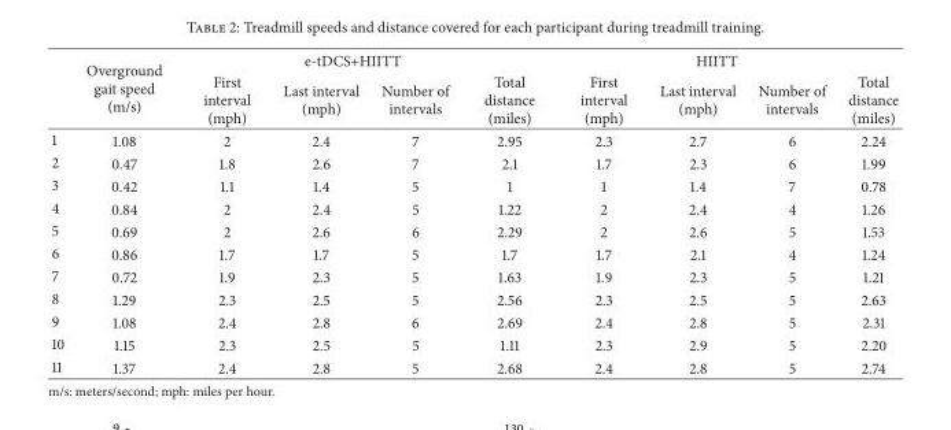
<table><thead><tr><td rowspan="2"></td><td rowspan="2">Overground gait speed (m/s)</td><td colspan="4">e-tDCS+HIITT</td><td colspan="4">HIITT</td></tr><tr><td>First interval (mph)</td><td>Last interval (mph)</td><td>Number of intervals</td><td>Total distance (miles)</td><td>First interval (mph)</td><td>Last interval (mph)</td><td>Number of intervals</td><td>Total distance (miles)</td></tr></thead><tbody><tr><td>1</td><td>1.08</td><td>2</td><td>2.4</td><td>7</td><td>2.95</td><td>2.3</td><td>2.7</td><td>6</td><td>2.24</td></tr><tr><td>2</td><td>0.47</td><td>1.8</td><td>2.6</td><td>7</td><td>2.1</td><td>1.7</td><td>2.3</td><td>6</td><td>1.99</td></tr><tr><td>3</td><td>0.42</td><td>1.1</td><td>1.4</td><td>5</td><td>1</td><td>1</td><td>1.4</td><td>7</td><td>0.78</td></tr><tr><td>4</td><td>0.84</td><td>2</td><td>2.4</td><td>5</td><td>1.22</td><td>2</td><td>2.4</td><td>4</td><td>1.26</td></tr><tr><td>5</td><td>0.69</td><td>2</td><td>2.6</td><td>6</td><td>2.29</td><td>2</td><td>2.6</td><td>5</td><td>1.53</td></tr><tr><td>6</td><td>0.86</td><td>1.7</td><td>1.7</td><td>5</td><td>1.7</td><td>1.7</td><td>2.1</td><td>4</td><td>1.24</td></tr><tr><td>7</td><td>0.72</td><td>1.9</td><td>2.3</td><td>5</td><td>1.63</td><td>1.9</td><td>2.3</td><td>5</td><td>1.21</td></tr><tr><td>8</td><td>1.29</td><td>2.3</td><td>2.5</td><td>5</td><td>2.56</td><td>2.3</td><td>2.5</td><td>5</td><td>2.63</td></tr><tr><td>9</td><td>1.08</td><td>2.4</td><td>2.8</td><td>6</td><td>2.69</td><td>2.4</td><td>2.8</td><td>5</td><td>2.31</td></tr><tr><td>10</td><td>1.15</td><td>2.3</td><td>2.5</td><td>5</td><td>1.11</td><td>2.3</td><td>2.9</td><td>5</td><td>2.20</td></tr><tr><td>11</td><td>1.37</td><td>2.4</td><td>2.8</td><td>5</td><td>2.68</td><td>2.4</td><td>2.8</td><td>5</td><td>2.74</td></tr></tbody></table>